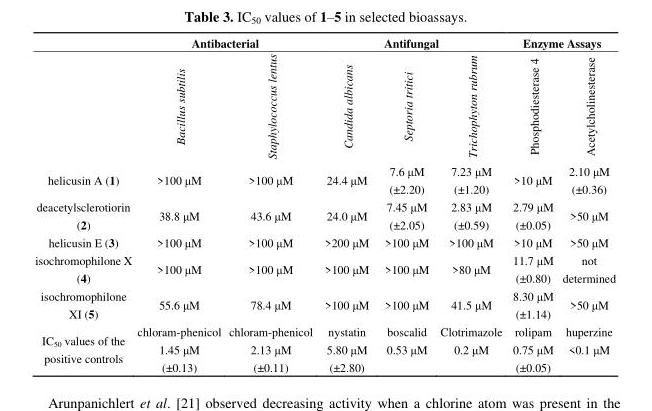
<table><thead><tr><td rowspan="2"></td><td colspan="2">Antibacterial</td><td colspan="3">Antifungal</td><td colspan="2">Enzyme Assays</td></tr><tr><td>Bacillus subtilis</td><td>Staphylococcus lentus</td><td>Candida albicans</td><td>Septoria tritici</td><td>Trichophyton rubrum</td><td>Phosphodiesterase 4</td><td>Acetylcholinesterase</td></tr></thead><tbody><tr><td>helicusin A (1)</td><td>&gt;100 μM</td><td>&gt;100 μM</td><td>24.4 μM</td><td>7.6 μM (±2.20)</td><td>7.23 μM (±1.20)</td><td>&gt;10 μM</td><td>2.10 μM (±0.36)</td></tr><tr><td>deacetylsclerotiorin (2)</td><td>38.8 μM</td><td>43.6 μM</td><td>24.0 μM</td><td>7.45 μM (±2.05)</td><td>2.83 μM (±0.59)</td><td>2.79 μM (±0.05)</td><td>&gt;50 μM</td></tr><tr><td>helicusin E (3)</td><td>&gt;100 μM</td><td>&gt;100 μM</td><td>&gt;200 μM</td><td>&gt;100 μM</td><td>&gt;100 μM</td><td>&gt;10 μM</td><td>&gt;50 μM</td></tr><tr><td>isochromophilone X (4)</td><td>&gt;100 μM</td><td>&gt;100 μM</td><td>&gt;100 μM</td><td>&gt;100 μM</td><td>&gt;80 μM</td><td>11.7 μM (±0.80)</td><td>not determined</td></tr><tr><td>isochromophilone XI (5)</td><td>55.6 μM</td><td>78.4 μM</td><td>&gt;100 μM</td><td>&gt;100 μM</td><td>41.5 μM</td><td>8.30 μM (±1.14)</td><td>&gt;50 μM</td></tr><tr><td>IC<sub>50</sub> values of the positive controls</td><td>chloram-phenicol 1.45 μM (±0.13)</td><td>chloram-phenicol 2.13 μM (±0.11)</td><td>nystatin 5.80 μM (±2.80)</td><td>boscalid 0.53 μM</td><td>Clotrimazole 0.2 μM</td><td>rolipam 0.75 μM (±0.05)</td><td>huperzine &lt;0.1 μM</td></tr></tbody></table>